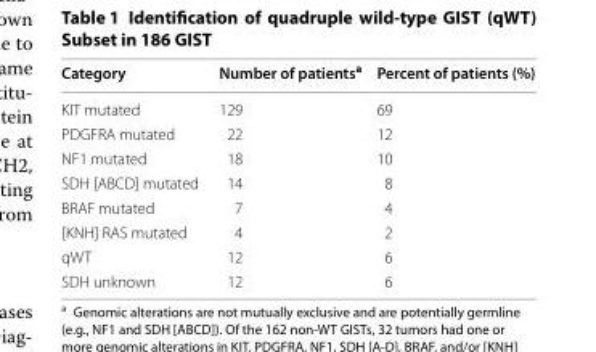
<table><thead><tr><td>Category</td><td>Number of patients<sup>a</sup></td><td>Percent of patients (%)</td></tr></thead><tbody><tr><td>KIT mutated</td><td>129</td><td>69</td></tr><tr><td>PDGFRA mutated</td><td>22</td><td>12</td></tr><tr><td>NF1 mutated</td><td>18</td><td>10</td></tr><tr><td>SDH [ABCD] mutated</td><td>14</td><td>8</td></tr><tr><td>BRAF mutated</td><td>7</td><td>4</td></tr><tr><td>[KNH] RAS mutated</td><td>4</td><td>2</td></tr><tr><td>qWT</td><td>12</td><td>6</td></tr><tr><td>SDH unknown</td><td>12</td><td>6</td></tr></tbody></table>